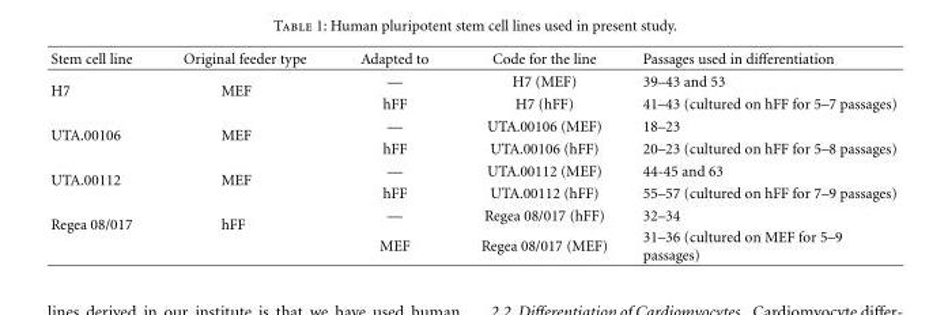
<table><thead><tr><td>Stem cell line</td><td>Original feeder type</td><td>Adapted to</td><td>Code for the line</td><td>Passages used in differentiation</td></tr></thead><tbody><tr><td rowspan="2">H7</td><td rowspan="2">MEF</td><td>—</td><td>H7 (MEF)</td><td>39–43 and 53</td></tr><tr><td>hFF</td><td>H7 (hFF)</td><td>41–43 (cultured on hFF for 5–7 passages)</td></tr><tr><td rowspan="2">UTA.00106</td><td rowspan="2">MEF</td><td>—</td><td>UTA.00106 (MEF)</td><td>18–23</td></tr><tr><td>hFF</td><td>UTA.00106 (hFF)</td><td>20–23 (cultured on hFF for 5–8 passages)</td></tr><tr><td rowspan="2">UTA.00112</td><td rowspan="2">MEF</td><td>—</td><td>UTA.00112 (MEF)</td><td>44-45 and 63</td></tr><tr><td>hFF</td><td>UTA.00112 (hFF)</td><td>55–57 (cultured on hFF for 7–9 passages)</td></tr><tr><td rowspan="2">Regea 08/017</td><td rowspan="2">hFF</td><td>—</td><td>Regea 08/017 (hFF)</td><td>32–34</td></tr><tr><td>MEF</td><td>Regea 08/017 (MEF)</td><td>31–36 (cultured on MEF for 5–9 passages)</td></tr></tbody></table>